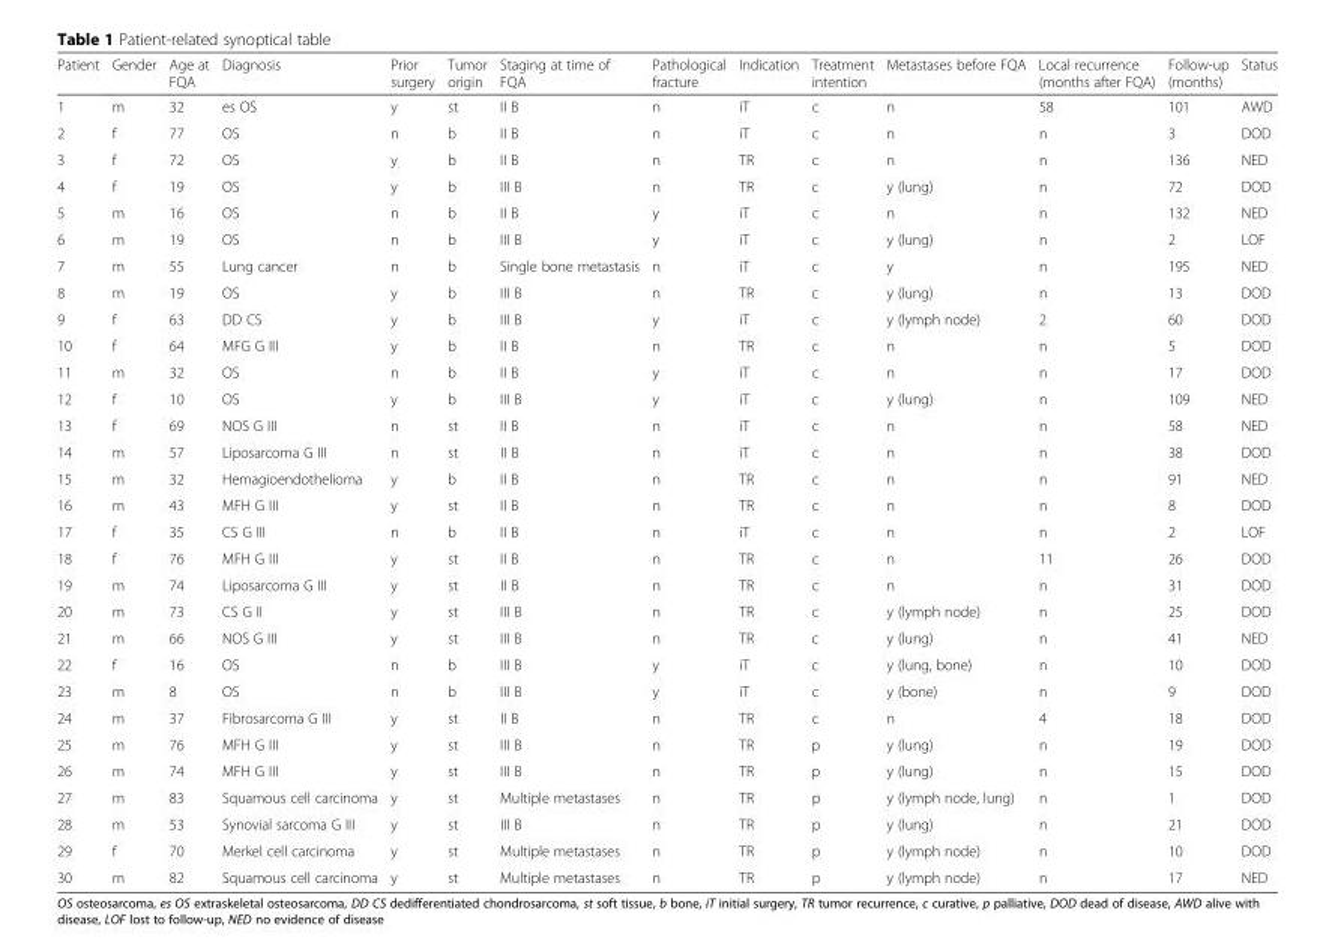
<table><thead><tr><td>Patient</td><td>Gender</td><td>Age at FQA</td><td>Diagnosis</td><td>Prior surgery</td><td>Tumor origin</td><td>Staging at time of FQA</td><td>Pathological fracture</td><td>Indication</td><td>Treatment intention</td><td>Metastases before FQA</td><td>Local recurrence (months after FQA)</td><td>Follow-up (months)</td><td>Status</td></tr></thead><tbody><tr><td>1</td><td>m</td><td>32</td><td>es OS</td><td>y</td><td>st</td><td>II B</td><td>n</td><td>iT</td><td>c</td><td>n</td><td>58</td><td>101</td><td>AWD</td></tr><tr><td>2</td><td>f</td><td>77</td><td>OS</td><td>n</td><td>b</td><td>II B</td><td>n</td><td>iT</td><td>c</td><td>n</td><td>n</td><td>3</td><td>DOD</td></tr><tr><td>3</td><td>f</td><td>72</td><td>OS</td><td>y</td><td>b</td><td>II B</td><td>n</td><td>TR</td><td>c</td><td>n</td><td>n</td><td>136</td><td>NED</td></tr><tr><td>4</td><td>f</td><td>19</td><td>OS</td><td>y</td><td>b</td><td>III B</td><td>n</td><td>TR</td><td>c</td><td>y (lung)</td><td>n</td><td>72</td><td>DOD</td></tr><tr><td>5</td><td>m</td><td>16</td><td>OS</td><td>n</td><td>b</td><td>II B</td><td>y</td><td>iT</td><td>c</td><td>n</td><td>n</td><td>132</td><td>NED</td></tr><tr><td>6</td><td>m</td><td>19</td><td>OS</td><td>n</td><td>b</td><td>III B</td><td>y</td><td>iT</td><td>c</td><td>y (lung)</td><td>n</td><td>2</td><td>LOF</td></tr><tr><td>7</td><td>m</td><td>55</td><td>Lung cancer</td><td>n</td><td>b</td><td>Single bone metastasis</td><td>n</td><td>iT</td><td>c</td><td>y</td><td>n</td><td>195</td><td>NED</td></tr><tr><td>8</td><td>m</td><td>19</td><td>OS</td><td>y</td><td>b</td><td>III B</td><td>n</td><td>TR</td><td>c</td><td>y (lung)</td><td>n</td><td>13</td><td>DOD</td></tr><tr><td>9</td><td>f</td><td>63</td><td>DD CS</td><td>y</td><td>b</td><td>III B</td><td>y</td><td>iT</td><td>c</td><td>y (lymph node)</td><td>2</td><td>60</td><td>DOD</td></tr><tr><td>10</td><td>f</td><td>64</td><td>MFG G III</td><td>y</td><td>b</td><td>II B</td><td>n</td><td>TR</td><td>c</td><td>n</td><td>n</td><td>5</td><td>DOD</td></tr><tr><td>11</td><td>m</td><td>32</td><td>OS</td><td>n</td><td>b</td><td>II B</td><td>y</td><td>iT</td><td>c</td><td>n</td><td>n</td><td>17</td><td>DOD</td></tr><tr><td>12</td><td>f</td><td>10</td><td>OS</td><td>y</td><td>b</td><td>III B</td><td>y</td><td>iT</td><td>c</td><td>y (lung)</td><td>n</td><td>109</td><td>NED</td></tr><tr><td>13</td><td>f</td><td>69</td><td>NOS G III</td><td>n</td><td>st</td><td>II B</td><td>n</td><td>iT</td><td>c</td><td>n</td><td>n</td><td>58</td><td>NED</td></tr><tr><td>14</td><td>m</td><td>57</td><td>Liposarcoma G III</td><td>n</td><td>st</td><td>II B</td><td>n</td><td>iT</td><td>c</td><td>n</td><td>n</td><td>38</td><td>DOD</td></tr><tr><td>15</td><td>m</td><td>32</td><td>Hemagioendothelioma</td><td>y</td><td>b</td><td>II B</td><td>n</td><td>TR</td><td>c</td><td>n</td><td>n</td><td>91</td><td>NED</td></tr><tr><td>16</td><td>m</td><td>43</td><td>MFH G III</td><td>y</td><td>st</td><td>II B</td><td>n</td><td>TR</td><td>c</td><td>n</td><td>n</td><td>8</td><td>DOD</td></tr><tr><td>17</td><td>f</td><td>35</td><td>CS G III</td><td>n</td><td>b</td><td>II B</td><td>n</td><td>iT</td><td>c</td><td>n</td><td>n</td><td>2</td><td>LOF</td></tr><tr><td>18</td><td>f</td><td>76</td><td>MFH G III</td><td>y</td><td>st</td><td>II B</td><td>n</td><td>TR</td><td>c</td><td>n</td><td>11</td><td>26</td><td>DOD</td></tr><tr><td>19</td><td>m</td><td>74</td><td>Liposarcoma G III</td><td>y</td><td>st</td><td>II B</td><td>n</td><td>TR</td><td>c</td><td>n</td><td>n</td><td>31</td><td>DOD</td></tr><tr><td>20</td><td>m</td><td>73</td><td>CS G II</td><td>y</td><td>st</td><td>III B</td><td>n</td><td>TR</td><td>c</td><td>y (lymph node)</td><td>n</td><td>25</td><td>DOD</td></tr><tr><td>21</td><td>m</td><td>66</td><td>NOS G III</td><td>y</td><td>st</td><td>III B</td><td>n</td><td>TR</td><td>c</td><td>y (lung)</td><td>n</td><td>41</td><td>NED</td></tr><tr><td>22</td><td>f</td><td>16</td><td>OS</td><td>n</td><td>b</td><td>III B</td><td>y</td><td>iT</td><td>c</td><td>y (lung, bone)</td><td>n</td><td>10</td><td>DOD</td></tr><tr><td>23</td><td>m</td><td>8</td><td>OS</td><td>n</td><td>b</td><td>III B</td><td>y</td><td>iT</td><td>c</td><td>y (bone)</td><td>n</td><td>9</td><td>DOD</td></tr><tr><td>24</td><td>m</td><td>37</td><td>Fibrosarcoma G III</td><td>y</td><td>st</td><td>II B</td><td>n</td><td>TR</td><td>c</td><td>n</td><td>4</td><td>18</td><td>DOD</td></tr><tr><td>25</td><td>m</td><td>76</td><td>MFH G III</td><td>y</td><td>st</td><td>III B</td><td>n</td><td>TR</td><td>p</td><td>y (lung)</td><td>n</td><td>19</td><td>DOD</td></tr><tr><td>26</td><td>m</td><td>74</td><td>MFH G III</td><td>y</td><td>st</td><td>III B</td><td>n</td><td>TR</td><td>p</td><td>y (lung)</td><td>n</td><td>15</td><td>DOD</td></tr><tr><td>27</td><td>m</td><td>83</td><td>Squamous cell carcinoma</td><td>y</td><td>st</td><td>Multiple metastases</td><td>n</td><td>TR</td><td>p</td><td>y (lymph node, lung)</td><td>n</td><td>1</td><td>DOD</td></tr><tr><td>28</td><td>m</td><td>53</td><td>Synovial sarcoma G III</td><td>y</td><td>st</td><td>III B</td><td>n</td><td>TR</td><td>p</td><td>y (lung)</td><td>n</td><td>21</td><td>DOD</td></tr><tr><td>29</td><td>f</td><td>70</td><td>Merkel cell carcinoma</td><td>y</td><td>st</td><td>Multiple metastases</td><td>n</td><td>TR</td><td>p</td><td>y (lymph node)</td><td>n</td><td>10</td><td>DOD</td></tr><tr><td>30</td><td>m</td><td>82</td><td>Squamous cell carcinoma</td><td>y</td><td>st</td><td>Multiple metastases</td><td>n</td><td>TR</td><td>p</td><td>y (lymph node)</td><td>n</td><td>17</td><td>NED</td></tr></tbody></table>